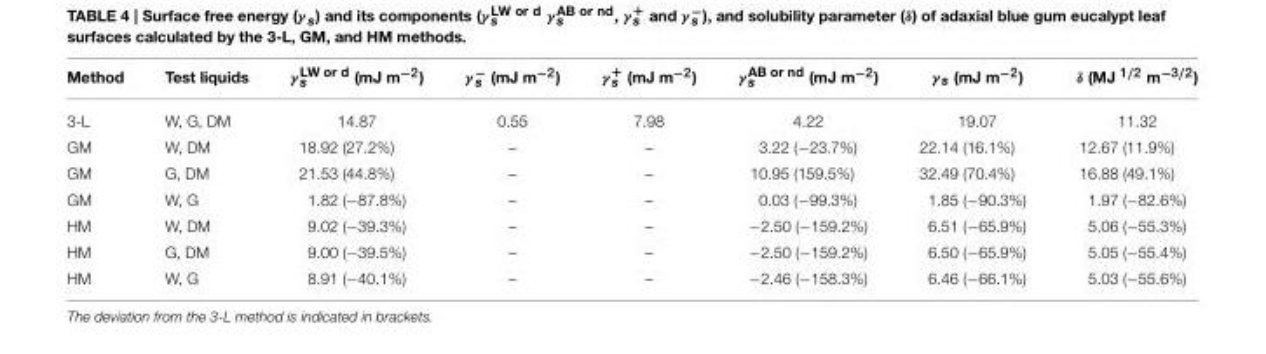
<table><thead><tr><td>Method</td><td>Test liquids</td><td>γ <sup>LW or d</sup> <sub>s</sub> (mJ m<sup>−2</sup>)</td><td>γ <sup>−</sup><sub>s</sub> (mJ m<sup>−2</sup>)</td><td>γ <sup>+</sup> <sub>s</sub> (mJ m<sup>−2</sup>)</td><td>γ <sup>AB or nd</sup> <sub>s</sub> (mJ m<sup>−2</sup>)</td><td>γ <sub>s</sub> (mJ m<sup>−2</sup>)</td><td>δ (MJ <sup>1/2</sup> m<sup>−3/2</sup>)</td></tr></thead><tbody><tr><td>3-L</td><td>W, G, DM</td><td>14.87</td><td>0.55</td><td>7.98</td><td>4.22</td><td>19.07</td><td>11.32</td></tr><tr><td>GM</td><td>W, DM</td><td>18.92 (27.2%)</td><td>–</td><td>–</td><td>3.22 (−23.7%)</td><td>22.14 (16.1%)</td><td>12.67 (11.9%)</td></tr><tr><td>GM</td><td>G, DM</td><td>21.53 (44.8%)</td><td>–</td><td>–</td><td>10.95 (159.5%)</td><td>32.49 (70.4%)</td><td>16.88 (49.1%)</td></tr><tr><td>GM</td><td>W, G</td><td>1.82 (−87.8%)</td><td>–</td><td>–</td><td>0.03 (−99.3%)</td><td>1.85 (−90.3%)</td><td>1.97 (−82.6%)</td></tr><tr><td>HM</td><td>W, DM</td><td>9.02 (−39.3%)</td><td>–</td><td>–</td><td>−2.50 (−159.2%)</td><td>6.51 (−65.9%)</td><td>5.06 (−55.3%)</td></tr><tr><td>HM</td><td>G, DM</td><td>9.00 (−39.5%)</td><td>–</td><td>–</td><td>−2.50 (−159.2%)</td><td>6.50 (−65.9%)</td><td>5.05 (−55.4%)</td></tr><tr><td>HM</td><td>W, G</td><td>8.91 (−40.1%)</td><td>–</td><td>–</td><td>−2.46 (−158.3%)</td><td>6.46 (−66.1%)</td><td>5.03 (−55.6%)</td></tr></tbody></table>